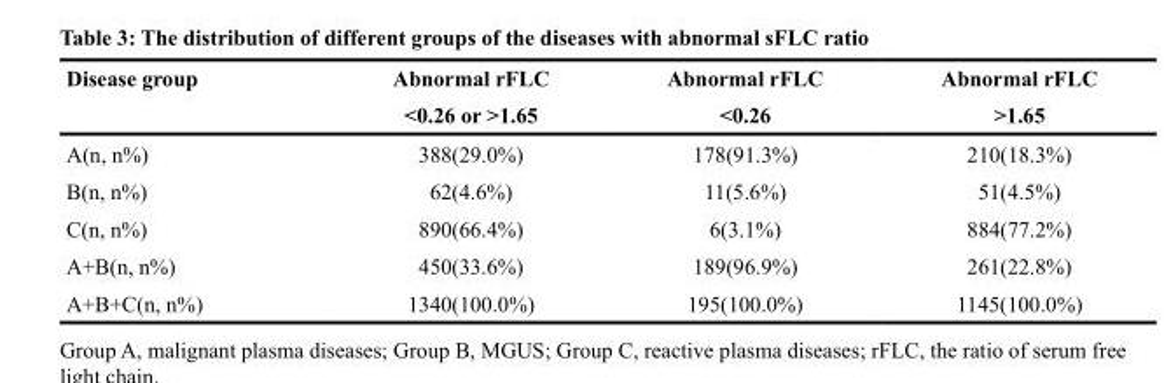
<table><thead><tr><td rowspan="2">Disease group</td><td rowspan="2">Abnormal rFLC &lt;0.26 or &gt;1.65</td><td rowspan="2">Abnormal rFLC &lt;0.26</td><td rowspan="2">Abnormal rFLC &gt;1.65</td></tr><tr></tr></thead><tbody><tr><td>A(n, n%)</td><td>388(29.0%)</td><td>178(91.3%)</td><td>210(18.3%)</td></tr><tr><td>B(n, n%)</td><td>62(4.6%)</td><td>11(5.6%)</td><td>51(4.5%)</td></tr><tr><td>C(n, n%)</td><td>890(66.4%)</td><td>6(3.1%)</td><td>884(77.2%)</td></tr><tr><td>A+B(n, n%)</td><td>450(33.6%)</td><td>189(96.9%)</td><td>261(22.8%)</td></tr><tr><td>A+B+C(n, n%)</td><td>1340(100.0%)</td><td>195(100.0%)</td><td>1145(100.0%)</td></tr></tbody></table>